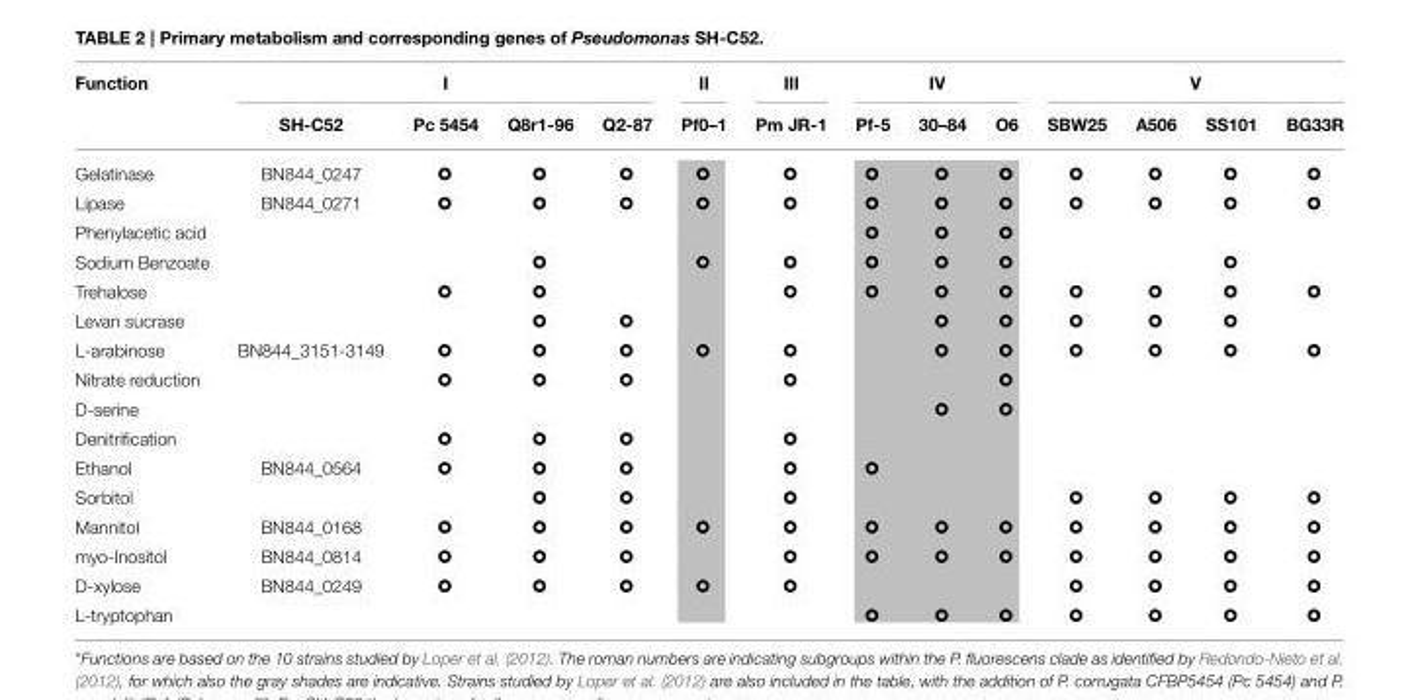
<table><thead><tr><td rowspan="2">Function</td><td colspan="4">I</td><td rowspan="2">II Pf0–1</td><td rowspan="2">III Pm JR-1</td><td colspan="3">IV</td><td colspan="4">V</td></tr><tr><td>SH-C52</td><td>Pc 5454</td><td>Q8r1-96</td><td>Q2-87</td><td>Pf-5</td><td>30–84</td><td>O6</td><td>SBW25</td><td>A506</td><td>SS101</td><td>BG33R</td></tr></thead><tbody><tr><td>Gelatinase</td><td>BN844_0247</td><td></td><td></td><td></td><td></td><td></td><td></td><td></td><td></td><td></td><td></td><td></td><td></td></tr><tr><td>Lipase</td><td>BN844_0271</td><td></td><td></td><td></td><td></td><td></td><td></td><td></td><td></td><td></td><td></td><td></td><td></td></tr><tr><td colspan="14">Phenylacetic acid</td></tr><tr><td colspan="14">Sodium Benzoate</td></tr><tr><td colspan="14">Trehalose</td></tr><tr><td colspan="14">Levan sucrase</td></tr><tr><td>L-arabinose</td><td>BN844_3151-3149</td><td></td><td></td><td></td><td></td><td></td><td></td><td></td><td></td><td></td><td></td><td></td><td></td></tr><tr><td colspan="14">Nitrate reduction</td></tr><tr><td colspan="14">D-serine</td></tr><tr><td colspan="14">Denitrification</td></tr><tr><td>Ethanol</td><td>BN844_0564</td><td></td><td></td><td></td><td></td><td></td><td></td><td></td><td></td><td></td><td></td><td></td><td></td></tr><tr><td colspan="14">Sorbitol</td></tr><tr><td>Mannitol</td><td>BN844_0168</td><td></td><td></td><td></td><td></td><td></td><td></td><td></td><td></td><td></td><td></td><td></td><td></td></tr><tr><td>myo-Inositol</td><td>BN844_0814</td><td></td><td></td><td></td><td></td><td></td><td></td><td></td><td></td><td></td><td></td><td></td><td></td></tr><tr><td>D-xylose</td><td>BN844_0249</td><td></td><td></td><td></td><td></td><td></td><td></td><td></td><td></td><td></td><td></td><td></td><td></td></tr><tr><td>L-tryptophan</td><td></td><td></td><td></td><td></td><td></td><td></td><td></td><td></td><td></td><td></td><td></td><td></td><td></td></tr></tbody></table>